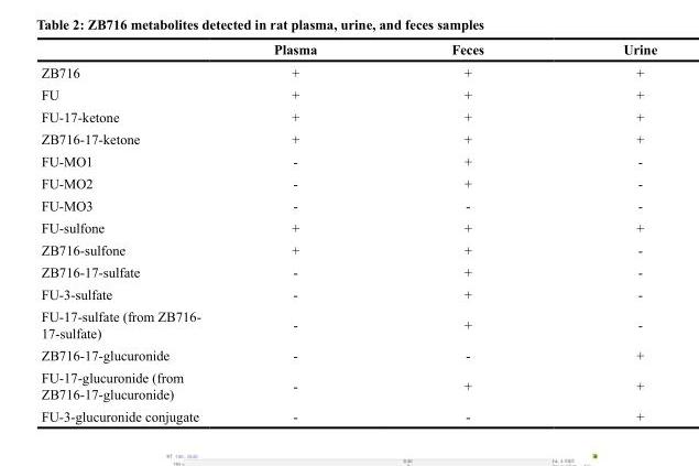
<table><thead><tr><td></td><td>Plasma</td><td>Feces</td><td>Urine</td></tr></thead><tbody><tr><td>ZB716</td><td>+</td><td>+</td><td>+</td></tr><tr><td>FU</td><td>+</td><td>+</td><td>+</td></tr><tr><td>FU-17-ketone</td><td>+</td><td>+</td><td>+</td></tr><tr><td>ZB716-17-ketone</td><td>+</td><td>+</td><td>+</td></tr><tr><td>FU-MO1</td><td>-</td><td>+</td><td>-</td></tr><tr><td>FU-MO2</td><td>-</td><td>+</td><td>-</td></tr><tr><td>FU-MO3</td><td>-</td><td>-</td><td>-</td></tr><tr><td>FU-sulfone</td><td>+</td><td>+</td><td>+</td></tr><tr><td>ZB716-sulfone</td><td>+</td><td>+</td><td>-</td></tr><tr><td>ZB716-17-sulfate</td><td>-</td><td>+</td><td>-</td></tr><tr><td>FU-3-sulfate</td><td>-</td><td>+</td><td>-</td></tr><tr><td>FU-17-sulfate (from ZB716- 17-sulfate)</td><td>-</td><td>+</td><td>-</td></tr><tr><td>ZB716-17-glucuronide</td><td>-</td><td>-</td><td>+</td></tr><tr><td>FU-17-glucuronide (from ZB716-17-glucuronide)</td><td>-</td><td>+</td><td>+</td></tr><tr><td>FU-3-glucuronide conjugate</td><td>-</td><td>-</td><td>+</td></tr></tbody></table>